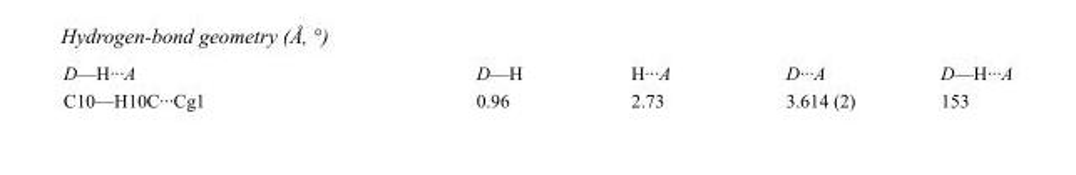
<table><tbody><tr><td>D—H···A</td><td>D—H</td><td>H···A</td><td>D···A</td><td>D—H···A</td></tr><tr><td>C10—H10C···Cg1</td><td>0.96</td><td>2.73</td><td>3.614 (2)</td><td>153</td></tr></tbody></table>